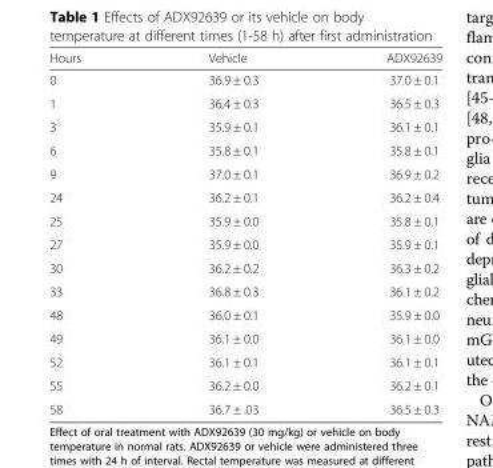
<table><thead><tr><td>Hours</td><td>Vehicle</td><td>ADX92639</td></tr></thead><tbody><tr><td>0</td><td>36.9 ± 0.3</td><td>37.0 ± 0.1</td></tr><tr><td>1</td><td>36.4 ± 0.3</td><td>36.5 ± 0.3</td></tr><tr><td>3</td><td>35.9 ± 0.1</td><td>36.1 ± 0.1</td></tr><tr><td>6</td><td>35.8 ± 0.1</td><td>35.8 ± 0.1</td></tr><tr><td>9</td><td>37.0 ± 0.1</td><td>36.9 ± 0.2</td></tr><tr><td>24</td><td>36.2 ± 0.1</td><td>36.2 ± 0.4</td></tr><tr><td>25</td><td>35.9 ± 0.0</td><td>35.8 ± 0.1</td></tr><tr><td>27</td><td>35.9 ± 0.0</td><td>35.9 ± 0.1</td></tr><tr><td>30</td><td>36.2 ± 0.2</td><td>36.3 ± 0.2</td></tr><tr><td>33</td><td>36.8 ± 0.3</td><td>36.1 ± 0.2</td></tr><tr><td>48</td><td>36.0 ± 0.1</td><td>35.9 ± 0.0</td></tr><tr><td>49</td><td>36.1 ± 0.0</td><td>36.1 ± 0.0</td></tr><tr><td>52</td><td>36.1 ± 0.1</td><td>36.1 ± 0.1</td></tr><tr><td>55</td><td>36.2 ± 0.0</td><td>36.2 ± 0.1</td></tr><tr><td>58</td><td>36.7 ± .03</td><td>36.5 ± 0.3</td></tr></tbody></table>